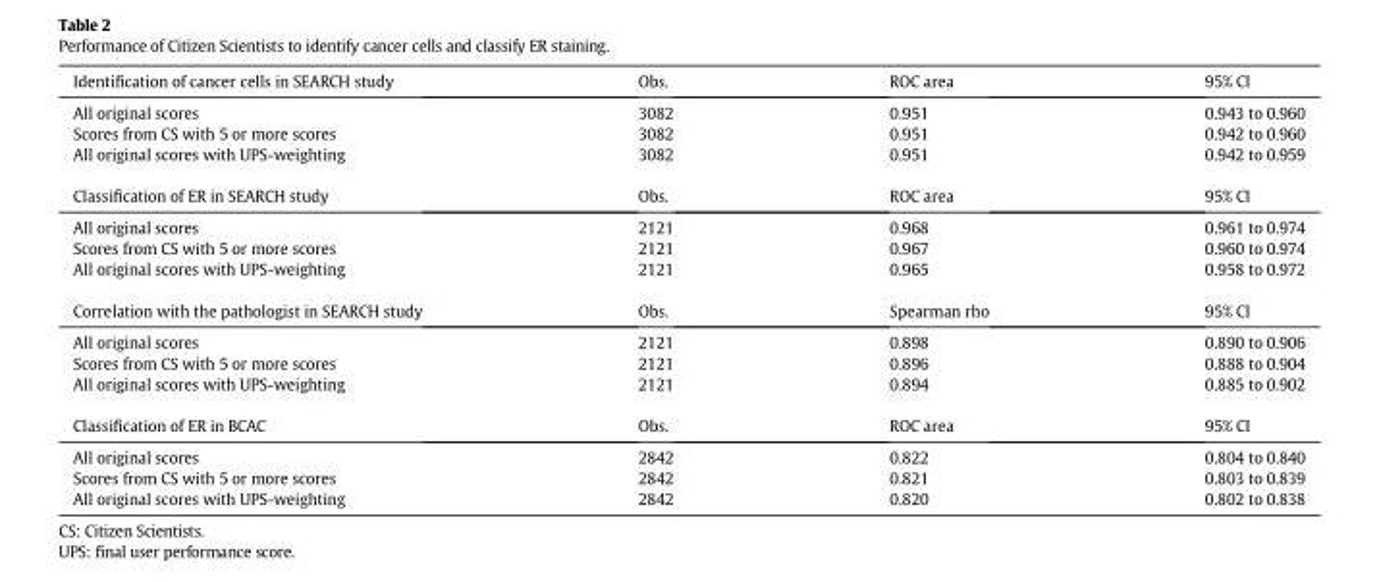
<table><thead><tr><td>Identification of cancer cells in SEARCH study</td><td>Obs.</td><td>ROC area</td><td>95% CI</td></tr></thead><tbody><tr><td>All original scores</td><td>3082</td><td>0.951</td><td>0.943 to 0.960</td></tr><tr><td>Scores from CS with 5 or more scores</td><td>3082</td><td>0.951</td><td>0.942 to 0.960</td></tr><tr><td>All original scores with UPS-weighting</td><td>3082</td><td>0.951</td><td>0.942 to 0.959</td></tr><tr><td>Classification of ER in SEARCH study</td><td>Obs.</td><td>ROC area</td><td>95% CI</td></tr><tr><td>All original scores</td><td>2121</td><td>0.968</td><td>0.961 to 0.974</td></tr><tr><td>Scores from CS with 5 or more scores</td><td>2121</td><td>0.967</td><td>0.960 to 0.974</td></tr><tr><td>All original scores with UPS-weighting</td><td>2121</td><td>0.965</td><td>0.958 to 0.972</td></tr><tr><td>Correlation with the pathologist in SEARCH study</td><td>Obs.</td><td>Spearman rho</td><td>95% CI</td></tr><tr><td>All original scores</td><td>2121</td><td>0.898</td><td>0.890 to 0.906</td></tr><tr><td>Scores from CS with 5 or more scores</td><td>2121</td><td>0.896</td><td>0.888 to 0.904</td></tr><tr><td>All original scores with UPS-weighting</td><td>2121</td><td>0.894</td><td>0.885 to 0.902</td></tr><tr><td>Classification of ER in BCAC</td><td>Obs.</td><td>ROC area</td><td>95% CI</td></tr><tr><td>All original scores</td><td>2842</td><td>0.822</td><td>0.804 to 0.840</td></tr><tr><td>Scores from CS with 5 or more scores</td><td>2842</td><td>0.821</td><td>0.803 to 0.839</td></tr><tr><td>All original scores with UPS-weighting</td><td>2842</td><td>0.820</td><td>0.802 to 0.838</td></tr></tbody></table>